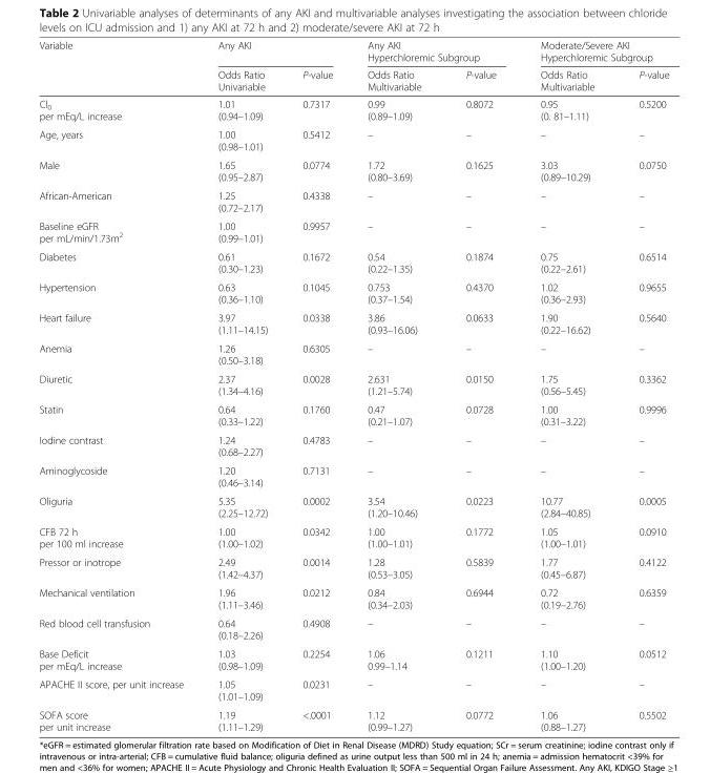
<table><thead><tr><td rowspan="2">Variable</td><td colspan="2">Any AKI</td><td colspan="2">Any AKI Hyperchloremic Subgroup</td><td colspan="2">Moderate/Severe AKI Hyperchloremic Subgroup</td></tr><tr><td>Odds Ratio Univariable</td><td>P-value</td><td>Odds Ratio Multivariable</td><td>P-value</td><td>Odds Ratio Multivariable</td><td>P-value</td></tr></thead><tbody><tr><td>Cl<sub>0</sub> per mEq/L increase</td><td>1.01 (0.94–1.09)</td><td>0.7317</td><td>0.99 (0.89–1.09)</td><td>0.8072</td><td>0.95 (0. 81–1.11)</td><td>0.5200</td></tr><tr><td>Age, years</td><td>1.00 (0.98–1.01)</td><td>0.5412</td><td>–</td><td>–</td><td>–</td><td>–</td></tr><tr><td>Male</td><td>1.65 (0.95–2.87)</td><td>0.0774</td><td>1.72 (0.80–3.69)</td><td>0.1625</td><td>3.03 (0.89–10.29)</td><td>0.0750</td></tr><tr><td>African-American</td><td>1.25 (0.72–2.17)</td><td>0.4338</td><td>–</td><td>–</td><td>–</td><td>–</td></tr><tr><td>Baseline eGFR per mL/min/1.73m<sup>2</sup></td><td>1.00 (0.99–1.01)</td><td>0.9957</td><td>–</td><td>–</td><td>–</td><td>–</td></tr><tr><td>Diabetes</td><td>0.61 (0.30–1.23)</td><td>0.1672</td><td>0.54 (0.22–1.35)</td><td>0.1874</td><td>0.75 (0.22–2.61)</td><td>0.6514</td></tr><tr><td>Hypertension</td><td>0.63 (0.36–1.10)</td><td>0.1045</td><td>0.753 (0.37–1.54)</td><td>0.4370</td><td>1.02 (0.36–2.93)</td><td>0.9655</td></tr><tr><td>Heart failure</td><td>3.97 (1.11–14.15)</td><td>0.0338</td><td>3.86 (0.93–16.06)</td><td>0.0633</td><td>1.90 (0.22–16.62)</td><td>0.5640</td></tr><tr><td>Anemia</td><td>1.26 (0.50–3.18)</td><td>0.6305</td><td>–</td><td>–</td><td>–</td><td>–</td></tr><tr><td>Diuretic</td><td>2.37 (1.34–4.16)</td><td>0.0028</td><td>2.631 (1.21–5.74)</td><td>0.0150</td><td>1.75 (0.56–5.45)</td><td>0.3362</td></tr><tr><td>Statin</td><td>0.64 (0.33–1.22)</td><td>0.1760</td><td>0.47 (0.21–1.07)</td><td>0.0728</td><td>1.00 (0.31–3.22)</td><td>0.9996</td></tr><tr><td>Iodine contrast</td><td>1.24 (0.68–2.27)</td><td>0.4783</td><td>–</td><td>–</td><td>–</td><td>–</td></tr><tr><td>Aminoglycoside</td><td>1.20 (0.46–3.14)</td><td>0.7131</td><td>–</td><td>–</td><td>–</td><td>–</td></tr><tr><td>Oliguria</td><td>5.35 (2.25–12.72)</td><td>0.0002</td><td>3.54 (1.20–10.46)</td><td>0.0223</td><td>10.77 (2.84–40.85)</td><td>0.0005</td></tr><tr><td>CFB 72 h per 100 ml increase</td><td>1.00 (1.00–1.02)</td><td>0.0342</td><td>1.00 (1.00–1.01)</td><td>0.1772</td><td>1.05 (1.00–1.01)</td><td>0.0910</td></tr><tr><td>Pressor or inotrope</td><td>2.49 (1.42–4.37)</td><td>0.0014</td><td>1.28 (0.53–3.05)</td><td>0.5839</td><td>1.77 (0.45–6.87)</td><td>0.4122</td></tr><tr><td>Mechanical ventilation</td><td>1.96 (1.11–3.46)</td><td>0.0212</td><td>0.84 (0.34–2.03)</td><td>0.6944</td><td>0.72 (0.19–2.76)</td><td>0.6359</td></tr><tr><td>Red blood cell transfusion</td><td>0.64 (0.18–2.26)</td><td>0.4908</td><td>–</td><td>–</td><td>–</td><td>–</td></tr><tr><td>Base Deficit per mEq/L increase</td><td>1.03 (0.98–1.09)</td><td>0.2254</td><td>1.06 0.99–1.14</td><td>0.1211</td><td>1.10 (1.00–1.20)</td><td>0.0512</td></tr><tr><td>APACHE II score, per unit increase</td><td>1.05 (1.01–1.09)</td><td>0.0231</td><td>–</td><td>–</td><td>–</td><td>–</td></tr><tr><td>SOFA score per unit increase</td><td>1.19 (1.11–1.29)</td><td>&lt;.0001</td><td>1.12 (0.99–1.27)</td><td>0.0772</td><td>1.06 (0.88–1.27)</td><td>0.5502</td></tr></tbody></table>